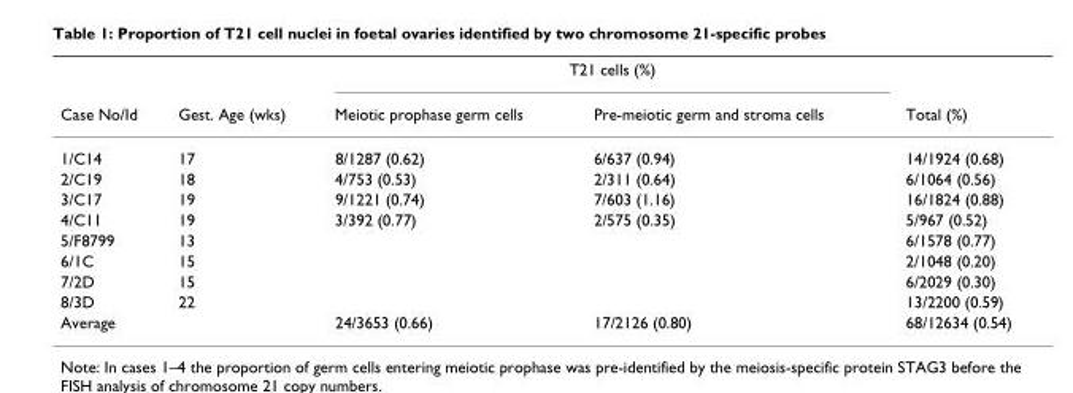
<table><thead><tr><td rowspan="2">Case No/Id</td><td rowspan="2">Gest. Age (wks)</td><td colspan="2">T21 cells (%)</td><td rowspan="2">Total (%)</td></tr><tr><td>Meiotic prophase germ cells</td><td>Pre-meiotic germ and stroma cells</td></tr></thead><tbody><tr><td>1/C14</td><td>17</td><td>8/1287 (0.62)</td><td>6/637 (0.94)</td><td>14/1924 (0.68)</td></tr><tr><td>2/C19</td><td>18</td><td>4/753 (0.53)</td><td>2/311 (0.64)</td><td>6/1064 (0.56)</td></tr><tr><td>3/C17</td><td>19</td><td>9/1221 (0.74)</td><td>7/603 (1.16)</td><td>16/1824 (0.88)</td></tr><tr><td>4/C11</td><td>19</td><td>3/392 (0.77)</td><td>2/575 (0.35)</td><td>5/967 (0.52)</td></tr><tr><td>5/F8799</td><td>13</td><td></td><td></td><td>6/1578 (0.77)</td></tr><tr><td>6/1C</td><td>15</td><td></td><td></td><td>2/1048 (0.20)</td></tr><tr><td>7/2D</td><td>15</td><td></td><td></td><td>6/2029 (0.30)</td></tr><tr><td>8/3D</td><td>22</td><td></td><td></td><td>13/2200 (0.59)</td></tr><tr><td>Average</td><td></td><td>24/3653 (0.66)</td><td>17/2126 (0.80)</td><td>68/12634 (0.54)</td></tr></tbody></table>